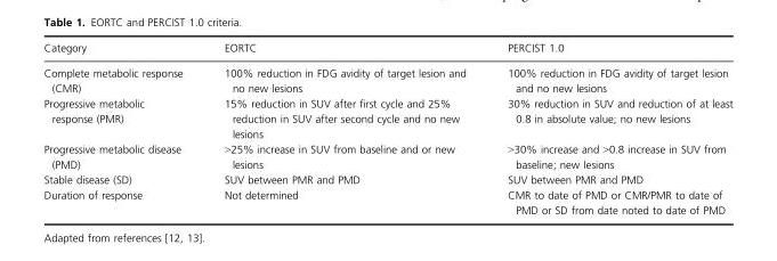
<table><thead><tr><td>Category</td><td>EORTC</td><td>PERCIST 1.0</td></tr></thead><tbody><tr><td>Complete metabolic response (CMR)</td><td>100% reduction in FDG avidity of target lesion and no new lesions</td><td>100% reduction in FDG avidity of target lesion and no new lesions</td></tr><tr><td>Progressive metabolic response (PMR)</td><td>15% reduction in SUV after first cycle and 25% reduction in SUV after second cycle and no new lesions</td><td>30% reduction in SUV and reduction of at least 0.8 in absolute value; no new lesions</td></tr><tr><td>Progressive metabolic disease (PMD)</td><td>&gt;25% increase in SUV from baseline and or new lesions</td><td>&gt;30% increase and &gt;0.8 increase in SUV from baseline; new lesions</td></tr><tr><td>Stable disease (SD)</td><td>SUV between PMR and PMD</td><td>SUV between PMR and PMD</td></tr><tr><td>Duration of response</td><td>Not determined</td><td>CMR to date of PMD or CMR/PMR to date of PMD or SD from date noted to date of PMD</td></tr></tbody></table>